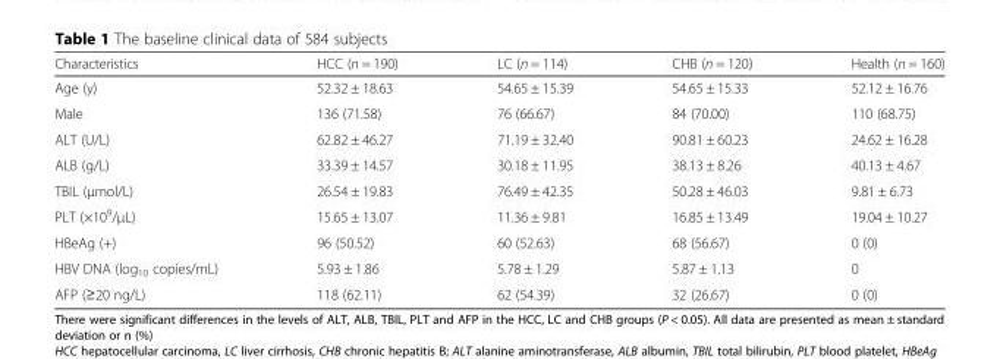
<table><thead><tr><td>Characteristics</td><td>HCC (n = 190)</td><td>LC (n = 114)</td><td>CHB (n = 120)</td><td>Health (n = 160)</td></tr></thead><tbody><tr><td>Age (y)</td><td>52.32 ± 18.63</td><td>54.65 ± 15.39</td><td>54.65 ± 15.33</td><td>52.12 ± 16.76</td></tr><tr><td>Male</td><td>136 (71.58)</td><td>76 (66.67)</td><td>84 (70.00)</td><td>110 (68.75)</td></tr><tr><td>ALT (U/L)</td><td>62.82 ± 46.27</td><td>71.19 ± 32.40</td><td>90.81 ± 60.23</td><td>24.62 ± 16.28</td></tr><tr><td>ALB (g/L)</td><td>33.39 ± 14.57</td><td>30.18 ± 11.95</td><td>38.13 ± 8.26</td><td>40.13 ± 4.67</td></tr><tr><td>TBIL (μmol/L)</td><td>26.54 ± 19.83</td><td>76.49 ± 42.35</td><td>50.28 ± 46.03</td><td>9.81 ± 6.73</td></tr><tr><td>PLT (×10<sup>9</sup>/μL)</td><td>15.65 ± 13.07</td><td>11.36 ± 9.81</td><td>16.85 ± 13.49</td><td>19.04 ± 10.27</td></tr><tr><td>HBeAg (+)</td><td>96 (50.52)</td><td>60 (52.63)</td><td>68 (56.67)</td><td>0 (0)</td></tr><tr><td>HBV DNA (log<sub>10</sub> copies/mL)</td><td>5.93 ± 1.86</td><td>5.78 ± 1.29</td><td>5.87 ± 1.13</td><td>0</td></tr><tr><td>AFP (≥20 ng/L)</td><td>118 (62.11)</td><td>62 (54.39)</td><td>32 (26.67)</td><td>0 (0)</td></tr></tbody></table>